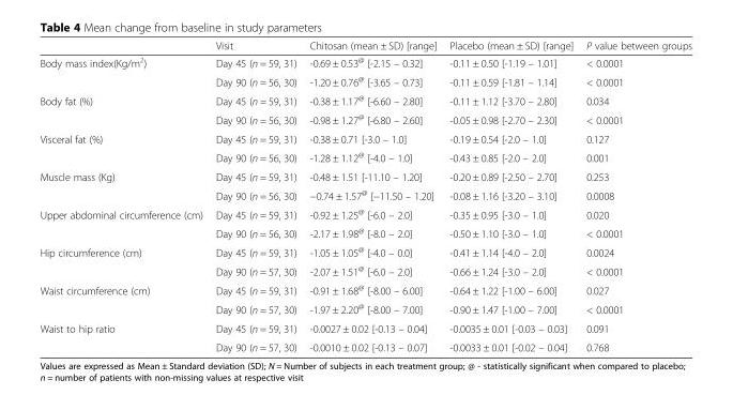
<table><thead><tr><td></td><td>Visit</td><td>Chitosan (mean ± SD) [range]</td><td>Placebo (mean ± SD) [range]</td><td>P value between groups</td></tr></thead><tbody><tr><td rowspan="2">Body mass index(Kg/m<sup>2</sup>)</td><td>Day 45 (n = 59, 31)</td><td>-0.69 ± 0.53<sup>@</sup> [-2.15 – 0.32]</td><td>-0.11 ± 0.50 [-1.19 – 1.01]</td><td>&lt; 0.0001</td></tr><tr><td>Day 90 (n = 56, 30)</td><td>-1.20 ± 0.76<sup>@</sup> [-3.65 – 0.73]</td><td>-0.11 ± 0.59 [-1.81 – 1.14]</td><td>&lt; 0.0001</td></tr><tr><td rowspan="2">Body fat (%)</td><td>Day 45 (n = 59, 31)</td><td>-0.38 ± 1.17<sup>@</sup> [-6.60 – 2.80]</td><td>-0.11 ± 1.12 [-3.70 – 2.80]</td><td>0.034</td></tr><tr><td>Day 90 (n = 56, 30)</td><td>-0.98 ± 1.27<sup>@</sup> [-6.80 – 2.60]</td><td>-0.05 ± 0.98 [-2.70 – 2.30]</td><td>&lt; 0.0001</td></tr><tr><td rowspan="2">Visceral fat (%)</td><td>Day 45 (n = 59, 31)</td><td>-0.38 ± 0.71 [-3.0 – 1.0]</td><td>-0.19 ± 0.54 [-2.0 – 1.0]</td><td>0.127</td></tr><tr><td>Day 90 (n = 56, 30)</td><td>-1.28 ± 1.12<sup>@</sup> [-4.0 – 1.0]</td><td>-0.43 ± 0.85 [-2.0 – 2.0]</td><td>0.001</td></tr><tr><td rowspan="2">Muscle mass (Kg)</td><td>Day 45 (n = 59, 31)</td><td>-0.48 ± 1.51 [-11.10 – 1.20]</td><td>-0.20 ± 0.89 [-2.50 – 2.70]</td><td>0.253</td></tr><tr><td>Day 90 (n = 56, 30)</td><td>−0.74 ± 1.57<sup>@</sup> [−11.50 – 1.20]</td><td>-0.08 ± 1.16 [-3.20 – 3.10]</td><td>0.0008</td></tr><tr><td rowspan="2">Upper abdominal circumference (cm)</td><td>Day 45 (n = 59, 31)</td><td>-0.92 ± 1.25<sup>@</sup> [-6.0 – 2.0]</td><td>-0.35 ± 0.95 [-3.0 – 1.0]</td><td>0.020</td></tr><tr><td>Day 90 (n = 56, 30)</td><td>-2.17 ± 1.98<sup>@</sup> [-8.0 – 2.0]</td><td>-0.50 ± 1.10 [-3.0 – 1.0]</td><td>&lt; 0.0001</td></tr><tr><td rowspan="2">Hip circumference (cm)</td><td>Day 45 (n = 59, 31)</td><td>-1.05 ± 1.05<sup>@</sup> [-4.0 – 0.0]</td><td>-0.41 ± 1.14 [-4.0 – 2.0]</td><td>0.0024</td></tr><tr><td>Day 90 (n = 57, 30)</td><td>-2.07 ± 1.51<sup>@</sup> [-6.0 – 2.0]</td><td>-0.66 ± 1.24 [-3.0 – 2.0]</td><td>&lt; 0.0001</td></tr><tr><td rowspan="2">Waist circumference (cm)</td><td>Day 45 (n = 59, 31)</td><td>-0.91 ± 1.68<sup>@</sup> [-8.00 – 6.00]</td><td>-0.64 ± 1.22 [-1.00 – 6.00]</td><td>0.027</td></tr><tr><td>Day 90 (n = 57, 30)</td><td>-1.97 ± 2.20<sup>@</sup> [-8.00 – 7.00]</td><td>-0.90 ± 1.47 [-1.00 – 7.00]</td><td>&lt; 0.0001</td></tr><tr><td rowspan="2">Waist to hip ratio</td><td>Day 45 (n = 59, 31)</td><td>-0.0027 ± 0.02 [-0.13 – 0.04]</td><td>-0.0035 ± 0.01 [-0.03 – 0.03]</td><td>0.091</td></tr><tr><td>Day 90 (n = 57, 30)</td><td>-0.0010 ± 0.02 [-0.13 – 0.07]</td><td>-0.0033 ± 0.01 [-0.02 – 0.04]</td><td>0.768</td></tr></tbody></table>